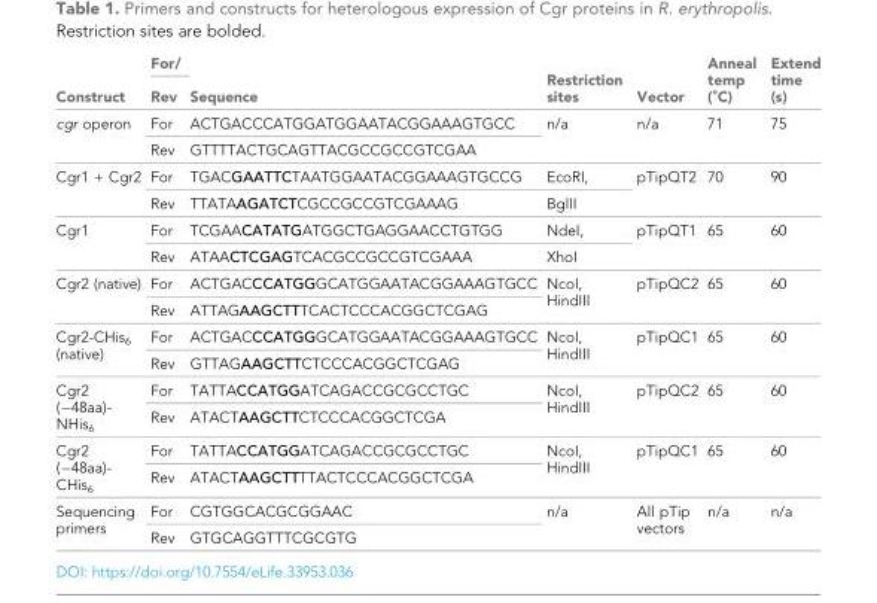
<table><thead><tr><td rowspan="2">Construct</td><td rowspan="2">For/ Rev</td><td rowspan="2">Sequence</td><td rowspan="2">Restriction sites</td><td rowspan="2">Vector</td><td rowspan="2">Anneal temp (˚C)</td><td rowspan="2">Extend time (s)</td></tr><tr></tr></thead><tbody><tr><td rowspan="2">cgr operon</td><td>For</td><td>ACTGACCCATGGATGGAATACGGAAAGTGCC</td><td rowspan="2">n/a</td><td rowspan="2">n/a</td><td rowspan="2">71</td><td rowspan="2">75</td></tr><tr><td>Rev</td><td>GTTTTACTGCAGTTACGCCGCCGTCGAA</td></tr><tr><td rowspan="2">Cgr1 + Cgr2</td><td>For</td><td>TGACGAATTCTAATGGAATACGGAAAGTGCCG</td><td>EcoRI,</td><td rowspan="2">pTipQT2</td><td rowspan="2">70</td><td rowspan="2">90</td></tr><tr><td>Rev</td><td>TTATAAGATCTCGCCGCCGTCGAAAG</td><td>BglII</td></tr><tr><td rowspan="2">Cgr1</td><td>For</td><td>TCGAACATATGATGGCTGAGGAACCTGTGG</td><td>NdeI,</td><td rowspan="2">pTipQT1</td><td rowspan="2">65</td><td rowspan="2">60</td></tr><tr><td>Rev</td><td>ATAACTCGAGTCACGCCGCCGTCGAAA</td><td>XhoI</td></tr><tr><td rowspan="2">Cgr2 (native)</td><td>For</td><td>ACTGACCCATGGGCATGGAATACGGAAAGTGCC</td><td rowspan="2">NcoI, HindIII</td><td rowspan="2">pTipQC2</td><td rowspan="2">65</td><td rowspan="2">60</td></tr><tr><td>Rev</td><td>ATTAGAAGCTTTCACTCCCACGGCTCGAG</td></tr><tr><td rowspan="2">Cgr2-CHis<sub>6</sub> (native)</td><td>For</td><td>ACTGACCCATGGGCATGGAATACGGAAAGTGCC</td><td rowspan="2">NcoI, HindIII</td><td rowspan="2">pTipQC1</td><td rowspan="2">65</td><td rowspan="2">60</td></tr><tr><td>Rev</td><td>GTTAGAAGCTTCTCCCACGGCTCGAG</td></tr><tr><td rowspan="2">Cgr2 (−48aa)- NHis<sub>6</sub></td><td>For</td><td>TATTACCATGGATCAGACCGCGCCTGC</td><td rowspan="2">NcoI, HindIII</td><td rowspan="2">pTipQC2</td><td rowspan="2">65</td><td rowspan="2">60</td></tr><tr><td>Rev</td><td>ATACTAAGCTTCTCCCACGGCTCGA</td></tr><tr><td rowspan="2">Cgr2 (−48aa)- CHis<sub>6</sub></td><td>For</td><td>TATTACCATGGATCAGACCGCGCCTGC</td><td rowspan="2">NcoI, HindIII</td><td rowspan="2">pTipQC1</td><td rowspan="2">65</td><td rowspan="2">60</td></tr><tr><td>Rev</td><td>ATACTAAGCTTTTACTCCCACGGCTCGA</td></tr><tr><td rowspan="2">Sequencing primers</td><td>For</td><td>CGTGGCACGCGGAAC</td><td rowspan="2">n/a</td><td rowspan="2">All pTip vectors</td><td rowspan="2">n/a</td><td rowspan="2">n/a</td></tr><tr><td>Rev</td><td>GTGCAGGTTTCGCGTG</td></tr></tbody></table>